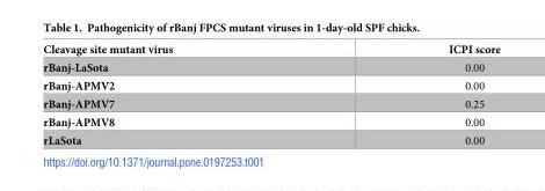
<table><thead><tr><td>Cleavage site mutant virus</td><td>ICPI score</td></tr></thead><tbody><tr><td>rBanj-LaSota</td><td>0.00</td></tr><tr><td>rBanj-APMV2</td><td>0.00</td></tr><tr><td>rBanj-APMV7</td><td>0.25</td></tr><tr><td>rBanj-APMV8</td><td>0.00</td></tr><tr><td>rLaSota</td><td>0.00</td></tr></tbody></table>